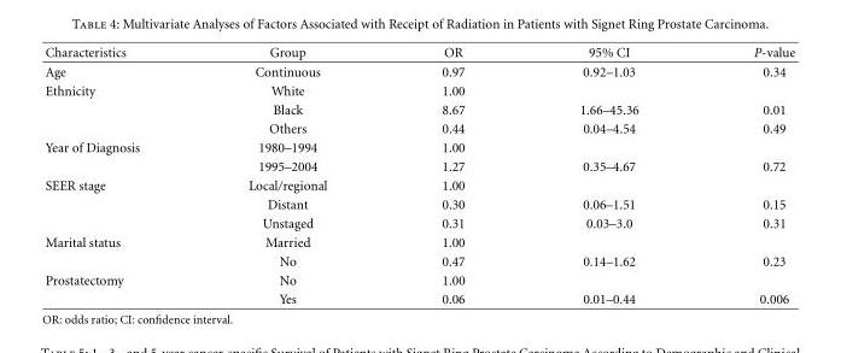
<table><thead><tr><td>Characteristics</td><td>Group</td><td>OR</td><td>95% CI</td><td>P-value</td></tr></thead><tbody><tr><td>Age</td><td>Continuous</td><td>0.97</td><td>0.92–1.03</td><td>0.34</td></tr><tr><td rowspan="3">Ethnicity</td><td>White</td><td>1.00</td><td></td><td></td></tr><tr><td>Black</td><td>8.67</td><td>1.66–45.36</td><td>0.01</td></tr><tr><td>Others</td><td>0.44</td><td>0.04–4.54</td><td>0.49</td></tr><tr><td rowspan="2">Year of Diagnosis</td><td>1980–1994</td><td>1.00</td><td></td><td></td></tr><tr><td>1995–2004</td><td>1.27</td><td>0.35–4.67</td><td>0.72</td></tr><tr><td rowspan="3">SEER stage</td><td>Local/regional</td><td>1.00</td><td></td><td></td></tr><tr><td>Distant</td><td>0.30</td><td>0.06–1.51</td><td>0.15</td></tr><tr><td>Unstaged</td><td>0.31</td><td>0.03–3.0</td><td>0.31</td></tr><tr><td rowspan="2">Marital status</td><td>Married</td><td>1.00</td><td></td><td></td></tr><tr><td>No</td><td>0.47</td><td>0.14–1.62</td><td>0.23</td></tr><tr><td rowspan="2">Prostatectomy</td><td>No</td><td>1.00</td><td></td><td></td></tr><tr><td>Yes</td><td>0.06</td><td>0.01–0.44</td><td>0.006</td></tr></tbody></table>